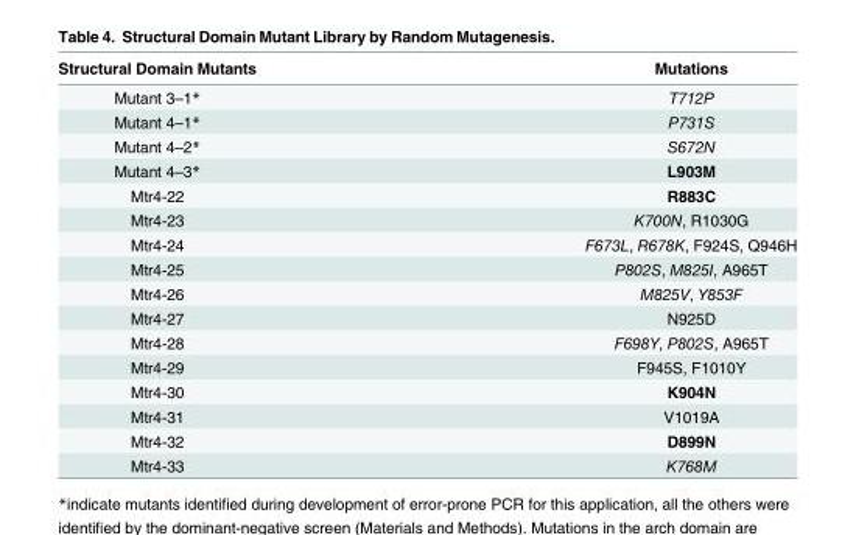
<table><thead><tr><td>Structural Domain Mutants</td><td>Mutations</td></tr></thead><tbody><tr><td>Mutant 3–1*</td><td>T712P</td></tr><tr><td>Mutant 4–1*</td><td>P731S</td></tr><tr><td>Mutant 4–2*</td><td>S672N</td></tr><tr><td>Mutant 4–3*</td><td>L903M</td></tr><tr><td>Mtr4-22</td><td>R883C</td></tr><tr><td>Mtr4-23</td><td>K700N, R1030G</td></tr><tr><td>Mtr4-24</td><td>F673L, R678K, F924S, Q946H</td></tr><tr><td>Mtr4-25</td><td>P802S, M825I, A965T</td></tr><tr><td>Mtr4-26</td><td>M825V, Y853F</td></tr><tr><td>Mtr4-27</td><td>N925D</td></tr><tr><td>Mtr4-28</td><td>F698Y, P802S, A965T</td></tr><tr><td>Mtr4-29</td><td>F945S, F1010Y</td></tr><tr><td>Mtr4-30</td><td>K904N</td></tr><tr><td>Mtr4-31</td><td>V1019A</td></tr><tr><td>Mtr4-32</td><td>D899N</td></tr><tr><td>Mtr4-33</td><td>K768M</td></tr></tbody></table>